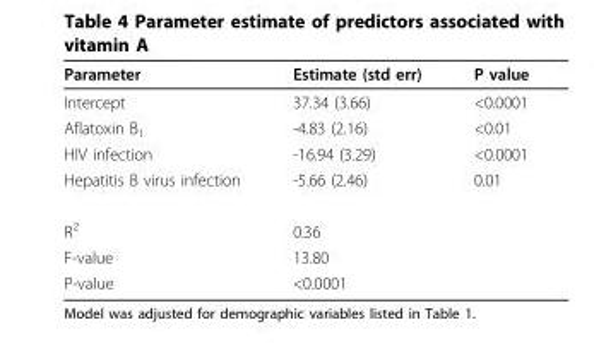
<table><thead><tr><td>Parameter</td><td>Estimate (std err)</td><td>P value</td></tr></thead><tbody><tr><td>Intercept</td><td>37.34 (3.66)</td><td>&lt;0.0001</td></tr><tr><td>Aflatoxin B<sub>1</sub></td><td>-4.83 (2.16)</td><td>&lt;0.01</td></tr><tr><td>HIV infection</td><td>-16.94 (3.29)</td><td>&lt;0.0001</td></tr><tr><td>Hepatitis B virus infection</td><td>-5.66 (2.46)</td><td>0.01</td></tr><tr><td>R<sup>2</sup></td><td>0.36</td><td></td></tr><tr><td>F-value</td><td>13.80</td><td></td></tr><tr><td>P-value</td><td>&lt;0.0001</td><td></td></tr></tbody></table>